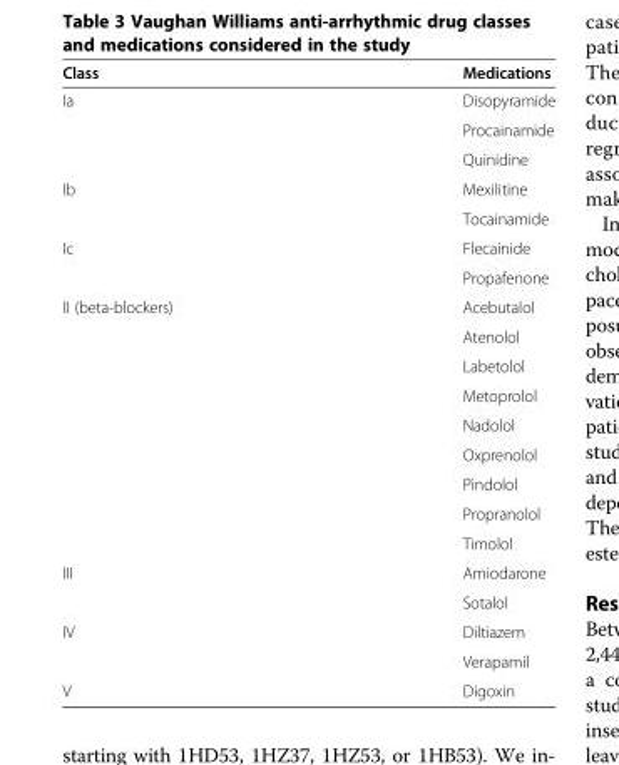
<table><thead><tr><td>Class</td><td>Medications</td></tr></thead><tbody><tr><td rowspan="3">Ia</td><td>Disopyramide</td></tr><tr><td>Procainamide</td></tr><tr><td>Quinidine</td></tr><tr><td rowspan="2">Ib</td><td>Mexilitine</td></tr><tr><td>Tocainamide</td></tr><tr><td rowspan="2">Ic</td><td>Flecainide</td></tr><tr><td>Propafenone</td></tr><tr><td rowspan="9">II (beta-blockers)</td><td>Acebutalol</td></tr><tr><td>Atenolol</td></tr><tr><td>Labetolol</td></tr><tr><td>Metoprolol</td></tr><tr><td>Nadolol</td></tr><tr><td>Oxprenolol</td></tr><tr><td>Pindolol</td></tr><tr><td>Propranolol</td></tr><tr><td>Timolol</td></tr><tr><td rowspan="2">III</td><td>Amiodarone</td></tr><tr><td>Sotalol</td></tr><tr><td rowspan="2">IV</td><td>Diltiazem</td></tr><tr><td>Verapamil</td></tr><tr><td>V</td><td>Digoxin</td></tr></tbody></table>